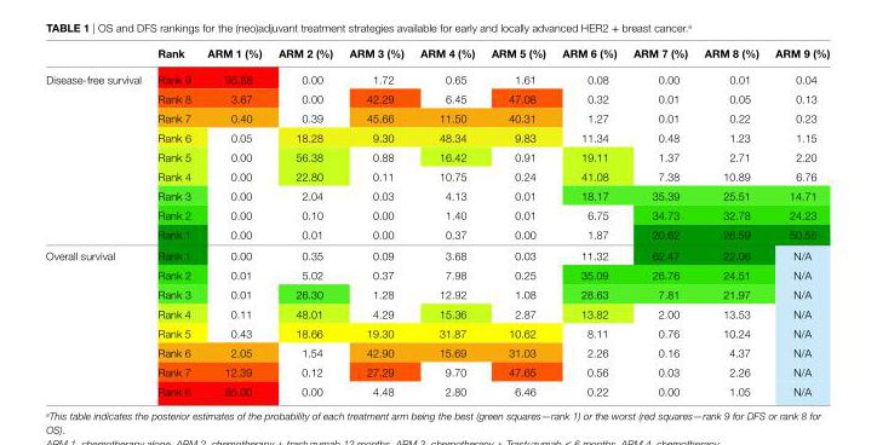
<table><thead><tr><td></td><td>Rank</td><td>ARM 1 (%)</td><td>ARM 2 (%)</td><td>ARM 3 (%)</td><td>ARM 4 (%)</td><td>ARM 5 (%)</td><td>ARM 6 (%)</td><td>ARM 7 (%)</td><td>ARM 8 (%)</td><td>ARM 9 (%)</td></tr></thead><tbody><tr><td rowspan="9">Disease-free survival</td><td>Rank 9</td><td>95.88</td><td>0.00</td><td>1.72</td><td>0.65</td><td>1.61</td><td>0.08</td><td>0.00</td><td>0.01</td><td>0.04</td></tr><tr><td>Rank 8</td><td>3.67</td><td>0.00</td><td>42.29</td><td>6.45</td><td>47.08</td><td>0.32</td><td>0.01</td><td>0.05</td><td>0.13</td></tr><tr><td>Rank 7</td><td>0.40</td><td>0.39</td><td>45.66</td><td>11.50</td><td>40.31</td><td>1.27</td><td>0.01</td><td>0.22</td><td>0.23</td></tr><tr><td>Rank 6</td><td>0.05</td><td>18.28</td><td>9.30</td><td>48.34</td><td>9.83</td><td>11.34</td><td>0.48</td><td>1.23</td><td>1.15</td></tr><tr><td>Rank 5</td><td>0.00</td><td>56.38</td><td>0.88</td><td>16.42</td><td>0.91</td><td>19.11</td><td>1.37</td><td>2.71</td><td>2.20</td></tr><tr><td>Rank 4</td><td>0.00</td><td>22.80</td><td>0.11</td><td>10.75</td><td>0.24</td><td>41.08</td><td>7.38</td><td>10.89</td><td>6.76</td></tr><tr><td>Rank 3</td><td>0.00</td><td>2.04</td><td>0.03</td><td>4.13</td><td>0.01</td><td>18.17</td><td>35.39</td><td>25.51</td><td>14.71</td></tr><tr><td>Rank 2</td><td>0.00</td><td>0.10</td><td>0.00</td><td>1.40</td><td>0.01</td><td>6.75</td><td>34.73</td><td>32.78</td><td>24.23</td></tr><tr><td>Rank 1</td><td>0.00</td><td>0.01</td><td>0.00</td><td>0.37</td><td>0.00</td><td>1.87</td><td>20.62</td><td>26.59</td><td>50.55</td></tr><tr><td rowspan="8">Overall survival</td><td>Rank 1</td><td>0.00</td><td>0.35</td><td>0.09</td><td>3.68</td><td>0.03</td><td>11.32</td><td>62.47</td><td>22.06</td><td>N/A</td></tr><tr><td>Rank 2</td><td>0.01</td><td>5.02</td><td>0.37</td><td>7.98</td><td>0.25</td><td>35.09</td><td>26.76</td><td>24.51</td><td>N/A</td></tr><tr><td>Rank 3</td><td>0.01</td><td>26.30</td><td>1.28</td><td>12.92</td><td>1.08</td><td>28.63</td><td>7.81</td><td>21.97</td><td>N/A</td></tr><tr><td>Rank 4</td><td>0.11</td><td>48.01</td><td>4.29</td><td>15.36</td><td>2.87</td><td>13.82</td><td>2.00</td><td>13.53</td><td>N/A</td></tr><tr><td>Rank 5</td><td>0.43</td><td>18.66</td><td>19.30</td><td>31.87</td><td>10.62</td><td>8.11</td><td>0.76</td><td>10.24</td><td>N/A</td></tr><tr><td>Rank 6</td><td>2.05</td><td>1.54</td><td>42.90</td><td>15.69</td><td>31.03</td><td>2.26</td><td>0.16</td><td>4.37</td><td>N/A</td></tr><tr><td>Rank 7</td><td>12.39</td><td>0.12</td><td>27.29</td><td>9.70</td><td>47.65</td><td>0.56</td><td>0.03</td><td>2.26</td><td>N/A</td></tr><tr><td>Rank 8</td><td>85.00</td><td>0.00</td><td>4.48</td><td>2.80</td><td>6.46</td><td>0.22</td><td>0.00</td><td>1.05</td><td>N/A</td></tr></tbody></table>